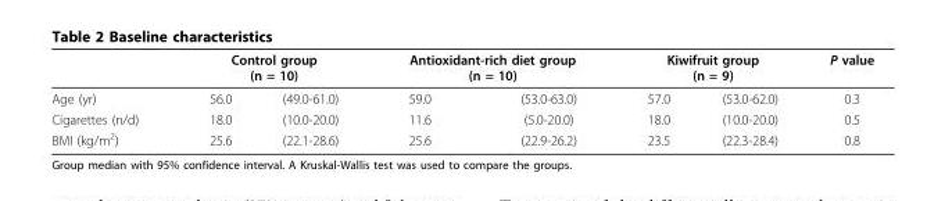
<table><thead><tr><td rowspan="2">Age (yr)</td><td colspan="2">Control group (n = 10)</td><td colspan="2">Antioxidant-rich diet group (n = 10)</td><td colspan="2">Kiwifruit group (n = 9)</td><td rowspan="2">P value 0.3</td></tr><tr><td>56.0</td><td>(49.0-61.0)</td><td>59.0</td><td>(53.0-63.0)</td><td>57.0</td><td>(53.0-62.0)</td></tr></thead><tbody><tr><td>Cigarettes (n/d)</td><td>18.0</td><td>(10.0-20.0)</td><td>11.6</td><td>(5.0-20.0)</td><td>18.0</td><td>(10.0-20.0)</td><td>0.5</td></tr><tr><td>BMI (kg/m<sup>2</sup>)</td><td>25.6</td><td>(22.1-28.6)</td><td>25.6</td><td>(22.9-26.2)</td><td>23.5</td><td>(22.3-28.4)</td><td>0.8</td></tr></tbody></table>